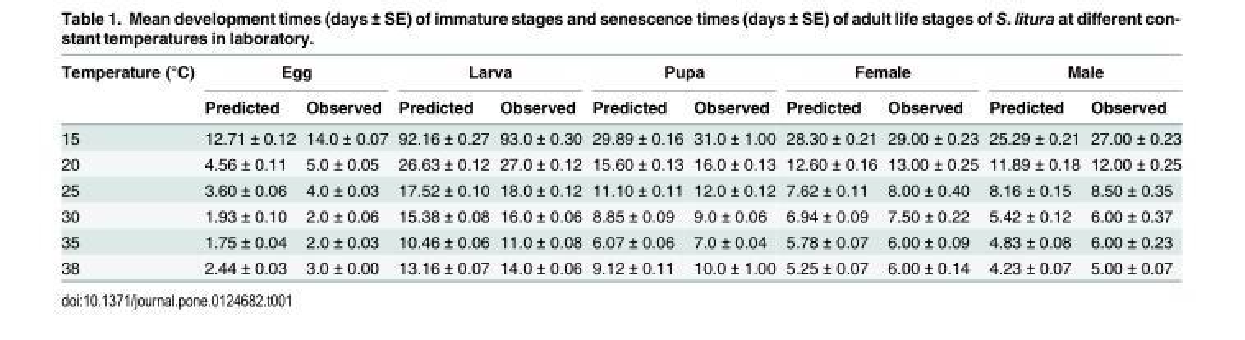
<table><thead><tr><td rowspan="2">Temperature (°C)</td><td colspan="2">Egg</td><td colspan="2">Larva</td><td colspan="2">Pupa</td><td colspan="2">Female</td><td colspan="2">Male</td></tr><tr><td>Predicted</td><td>Observed</td><td>Predicted</td><td>Observed</td><td>Predicted</td><td>Observed</td><td>Predicted</td><td>Observed</td><td>Predicted</td><td>Observed</td></tr></thead><tbody><tr><td>15</td><td>12.71 ± 0.12</td><td>14.0 ± 0.07</td><td>92.16 ± 0.27</td><td>93.0 ± 0.30</td><td>29.89 ± 0.16</td><td>31.0 ± 1.00</td><td>28.30 ± 0.21</td><td>29.00 ± 0.23</td><td>25.29 ± 0.21</td><td>27.00 ± 0.23</td></tr><tr><td>20</td><td>4.56 ± 0.11</td><td>5.0 ± 0.05</td><td>26.63 ± 0.12</td><td>27.0 ± 0.12</td><td>15.60 ± 0.13</td><td>16.0 ± 0.13</td><td>12.60 ± 0.16</td><td>13.00 ± 0.25</td><td>11.89 ± 0.18</td><td>12.00 ± 0.25</td></tr><tr><td>25</td><td>3.60 ± 0.06</td><td>4.0 ± 0.03</td><td>17.52 ± 0.10</td><td>18.0 ± 0.12</td><td>11.10 ± 0.11</td><td>12.0 ± 0.12</td><td>7.62 ± 0.11</td><td>8.00 ± 0.40</td><td>8.16 ± 0.15</td><td>8.50 ± 0.35</td></tr><tr><td>30</td><td>1.93 ± 0.10</td><td>2.0 ± 0.06</td><td>15.38 ± 0.08</td><td>16.0 ± 0.06</td><td>8.85 ± 0.09</td><td>9.0 ± 0.06</td><td>6.94 ± 0.09</td><td>7.50 ± 0.22</td><td>5.42 ± 0.12</td><td>6.00 ± 0.37</td></tr><tr><td>35</td><td>1.75 ± 0.04</td><td>2.0 ± 0.03</td><td>10.46 ± 0.06</td><td>11.0 ± 0.08</td><td>6.07 ± 0.06</td><td>7.0 ± 0.04</td><td>5.78 ± 0.07</td><td>6.00 ± 0.09</td><td>4.83 ± 0.08</td><td>6.00 ± 0.23</td></tr><tr><td>38</td><td>2.44 ± 0.03</td><td>3.0 ± 0.00</td><td>13.16 ± 0.07</td><td>14.0 ± 0.06</td><td>9.12 ± 0.11</td><td>10.0 ± 1.00</td><td>5.25 ± 0.07</td><td>6.00 ± 0.14</td><td>4.23 ± 0.07</td><td>5.00 ± 0.07</td></tr></tbody></table>